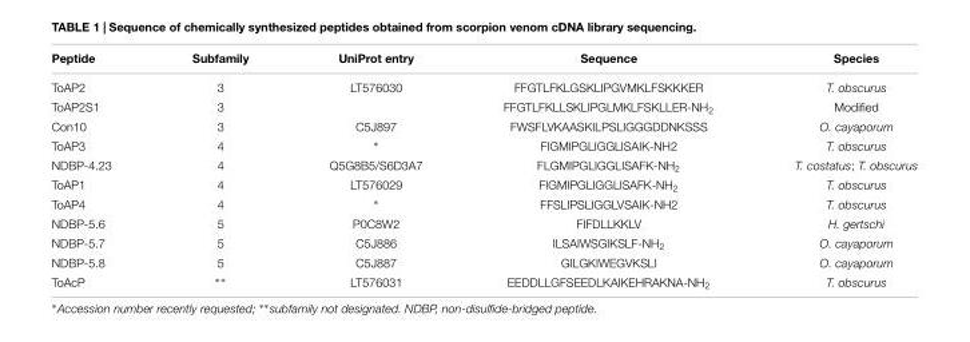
<table><thead><tr><td>Peptide</td><td>Subfamily</td><td>UniProt entry</td><td>Sequence</td><td>Species</td></tr></thead><tbody><tr><td>ToAP2</td><td>3</td><td>LT576030</td><td>FFGTLFKLGSKLIPGVMKLFSKKKER</td><td>T. obscurus</td></tr><tr><td>ToAP2S1</td><td>3</td><td></td><td>FFGTLFKLLSKLIPGLMKLFSKLLER-NH<sub>2</sub></td><td>Modified</td></tr><tr><td>Con10</td><td>3</td><td>C5J897</td><td>FWSFLVKAASKILPSLIGGGDDNKSSS</td><td>O. cayaporum</td></tr><tr><td>ToAP3</td><td>4</td><td>∗</td><td>FIGMIPGLIGGLISAIK-NH2</td><td>T. obscurus</td></tr><tr><td>NDBP-4.23</td><td>4</td><td>Q5G8B5/S6D3A7</td><td>FLGMIPGLIGGLISAFK-NH<sub>2</sub></td><td>T. costatus; T. obscurus</td></tr><tr><td>ToAP1</td><td>4</td><td>LT576029</td><td>FIGMIPGLIGGLISAFK-NH<sub>2</sub></td><td>T. obscurus</td></tr><tr><td>ToAP4</td><td>4</td><td>∗</td><td>FFSLIPSLIGGLVSAIK-NH2</td><td>T. obscurus</td></tr><tr><td>NDBP-5.6</td><td>5</td><td>P0C8W2</td><td>FIFDLLKKLV</td><td>H. gertschi</td></tr><tr><td>NDBP-5.7</td><td>5</td><td>C5J886</td><td>ILSAIWSGIKSLF-NH<sub>2</sub></td><td>O. cayaporum</td></tr><tr><td>NDBP-5.8</td><td>5</td><td>C5J887</td><td>GILGKIWEGVKSLI</td><td>O. cayaporum</td></tr><tr><td>ToAcP</td><td>∗∗</td><td>LT576031</td><td>EEDDLLGFSEEDLKAIKEHRAKNA-NH<sub>2</sub></td><td>T. obscurus</td></tr></tbody></table>